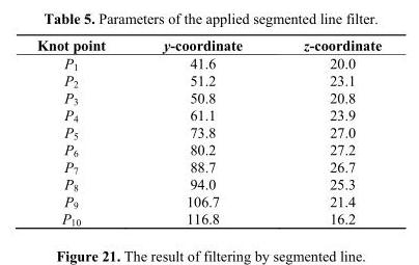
<table><thead><tr><td>Knot point</td><td>y-coordinate</td><td>z-coordinate</td></tr></thead><tbody><tr><td>P<sub>1</sub></td><td>41.6</td><td>20.0</td></tr><tr><td>P<sub>2</sub></td><td>51.2</td><td>23.1</td></tr><tr><td>P<sub>3</sub></td><td>50.8</td><td>20.8</td></tr><tr><td>P<sub>4</sub></td><td>61.1</td><td>23.9</td></tr><tr><td>P<sub>5</sub></td><td>73.8</td><td>27.0</td></tr><tr><td>P<sub>6</sub></td><td>80.2</td><td>27.2</td></tr><tr><td>P<sub>7</sub></td><td>88.7</td><td>26.7</td></tr><tr><td>P<sub>8</sub></td><td>94.0</td><td>25.3</td></tr><tr><td>P<sub>9</sub></td><td>106.7</td><td>21.4</td></tr><tr><td>P<sub>10</sub></td><td>116.8</td><td>16.2</td></tr></tbody></table>